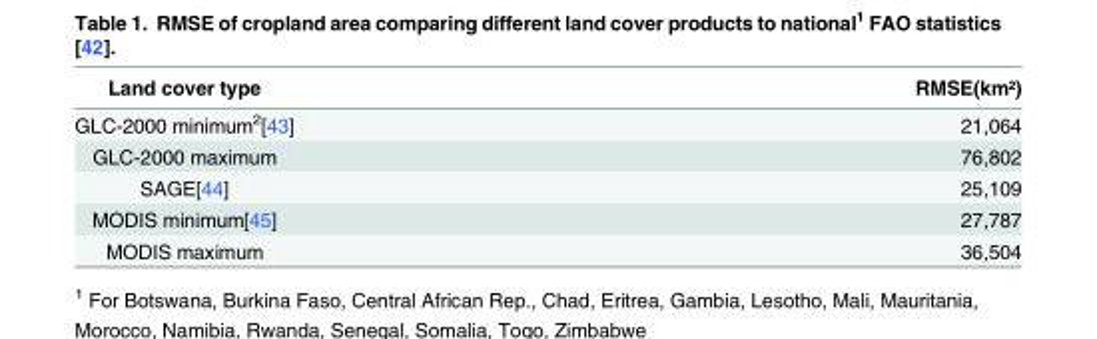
<table><thead><tr><td>Land cover type</td><td>RMSE(km²)</td></tr></thead><tbody><tr><td>GLC-2000 minimum<sup>2</sup>[43]</td><td>21,064</td></tr><tr><td>GLC-2000 maximum</td><td>76,802</td></tr><tr><td>SAGE[44]</td><td>25,109</td></tr><tr><td>MODIS minimum[45]</td><td>27,787</td></tr><tr><td>MODIS maximum</td><td>36,504</td></tr></tbody></table>